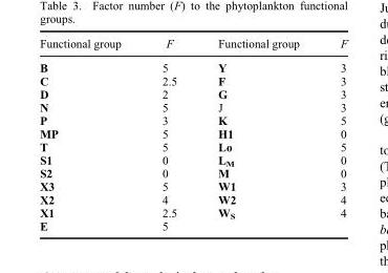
<table><thead><tr><td>Functional group</td><td>F</td><td>Functional group</td><td>F</td></tr></thead><tbody><tr><td>B</td><td>5</td><td>Y</td><td>3</td></tr><tr><td>C</td><td>2.5</td><td>F</td><td>3</td></tr><tr><td>D</td><td>2</td><td>G</td><td>3</td></tr><tr><td>N</td><td>5</td><td>J</td><td>3</td></tr><tr><td>P</td><td>3</td><td>K</td><td>5</td></tr><tr><td>MP</td><td>5</td><td>H1</td><td>0</td></tr><tr><td>T</td><td>5</td><td>Lo</td><td>5</td></tr><tr><td>S1</td><td>0</td><td>L<sub>M</sub></td><td>0</td></tr><tr><td>S2</td><td>0</td><td>M</td><td>0</td></tr><tr><td>X3</td><td>5</td><td>W1</td><td>3</td></tr><tr><td>X2</td><td>4</td><td>W2</td><td>4</td></tr><tr><td>X1</td><td>2.5</td><td>W<sub>S</sub></td><td>4</td></tr><tr><td>E</td><td>5</td><td></td><td></td></tr></tbody></table>